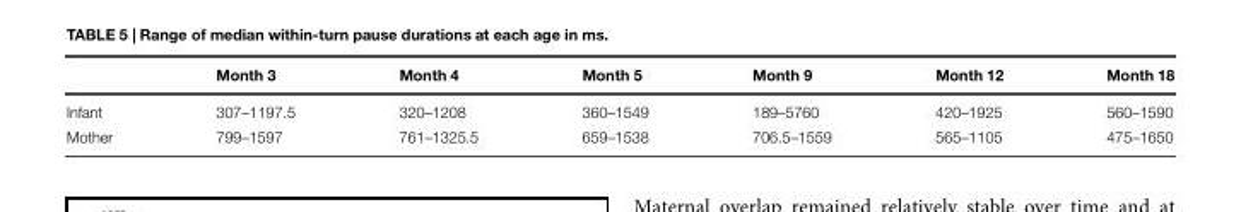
<table><thead><tr><td></td><td>Month 3</td><td>Month 4</td><td>Month 5</td><td>Month 9</td><td>Month 12</td><td>Month 18</td></tr></thead><tbody><tr><td>Infant</td><td>307–1197.5</td><td>320–1208</td><td>360–1549</td><td>189–5760</td><td>420–1925</td><td>560–1590</td></tr><tr><td>Mother</td><td>799–1597</td><td>761–1325.5</td><td>659–1538</td><td>706.5–1559</td><td>565–1105</td><td>475–1650</td></tr></tbody></table>